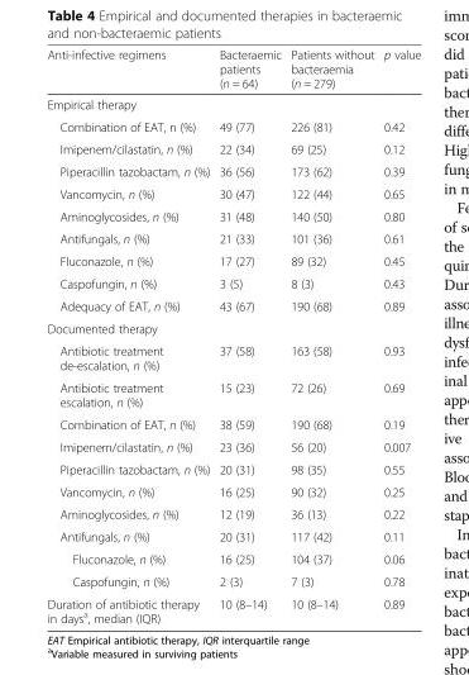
<table><thead><tr><td>Anti-infective regimens</td><td>Bacteraemic patients (n = 64)</td><td>Patients without bacteraemia (n = 279)</td><td>p value</td></tr></thead><tbody><tr><td colspan="4">Empirical therapy</td></tr><tr><td>Combination of EAT, n (%)</td><td>49 (77)</td><td>226 (81)</td><td>0.42</td></tr><tr><td>Imipenem/cilastatin, n (%)</td><td>22 (34)</td><td>69 (25)</td><td>0.12</td></tr><tr><td>Piperacillin tazobactam, n (%)</td><td>36 (56)</td><td>173 (62)</td><td>0.39</td></tr><tr><td>Vancomycin, n (%)</td><td>30 (47)</td><td>122 (44)</td><td>0.65</td></tr><tr><td>Aminoglycosides, n (%)</td><td>31 (48)</td><td>140 (50)</td><td>0.80</td></tr><tr><td>Antifungals, n (%)</td><td>21 (33)</td><td>101 (36)</td><td>0.61</td></tr><tr><td>Fluconazole, n (%)</td><td>17 (27)</td><td>89 (32)</td><td>0.45</td></tr><tr><td>Caspofungin, n (%)</td><td>3 (5)</td><td>8 (3)</td><td>0.43</td></tr><tr><td>Adequacy of EAT, n (%)</td><td>43 (67)</td><td>190 (68)</td><td>0.89</td></tr><tr><td colspan="4">Documented therapy</td></tr><tr><td>Antibiotic treatment de-escalation, n (%)</td><td>37 (58)</td><td>163 (58)</td><td>0.93</td></tr><tr><td>Antibiotic treatment escalation, n (%)</td><td>15 (23)</td><td>72 (26)</td><td>0.69</td></tr><tr><td>Combination of EAT, n (%)</td><td>38 (59)</td><td>190 (68)</td><td>0.19</td></tr><tr><td>Imipenem/cilastatin, n (%)</td><td>23 (36)</td><td>56 (20)</td><td>0.007</td></tr><tr><td>Piperacillin tazobactam, n (%)</td><td>20 (31)</td><td>98 (35)</td><td>0.55</td></tr><tr><td>Vancomycin, n (%)</td><td>16 (25)</td><td>90 (32)</td><td>0.25</td></tr><tr><td>Aminoglycosides, n (%)</td><td>12 (19)</td><td>36 (13)</td><td>0.22</td></tr><tr><td>Antifungals, n (%)</td><td>20 (31)</td><td>117 (42)</td><td>0.11</td></tr><tr><td>Fluconazole, n (%)</td><td>16 (25)</td><td>104 (37)</td><td>0.06</td></tr><tr><td>Caspofungin, n (%)</td><td>2 (3)</td><td>7 (3)</td><td>0.78</td></tr><tr><td>Duration of antibiotic therapy in days<sup>a</sup>, median (IQR)</td><td>10 (8–14)</td><td>10 (8–14)</td><td>0.89</td></tr></tbody></table>